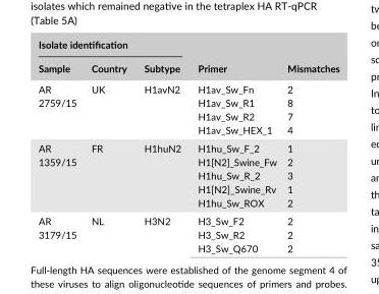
<table><thead><tr><td colspan="3">Isolate identification</td><td rowspan="2">Primer</td><td rowspan="2">Mismatches</td></tr><tr><td>Sample</td><td>Country</td><td>Subtype</td></tr></thead><tbody><tr><td rowspan="4">AR 2759/15</td><td rowspan="4">UK</td><td rowspan="4">H1avN2</td><td>H1av_Sw_Fn</td><td>2</td></tr><tr><td>H1av_Sw_R1</td><td>8</td></tr><tr><td>H1av_Sw_R2</td><td>7</td></tr><tr><td>H1av_Sw_HEX_1</td><td>4</td></tr><tr><td rowspan="5">AR 1359/15</td><td rowspan="5">FR</td><td rowspan="5">H1huN2</td><td>H1hu_Sw_F_2</td><td>1</td></tr><tr><td>H1[N2]_Swine_Fw</td><td>2</td></tr><tr><td>H1hu_Sw_R_2</td><td>3</td></tr><tr><td>H1[N2]_Swine_Rv</td><td>1</td></tr><tr><td>H1hu_Sw_ROX</td><td>2</td></tr><tr><td rowspan="3">AR 3179/15</td><td rowspan="3">NL</td><td rowspan="3">H3N2</td><td>H3_Sw_F2</td><td>2</td></tr><tr><td>H3_Sw_R2</td><td>2</td></tr><tr><td>H3_Sw_Q670</td><td>2</td></tr></tbody></table>